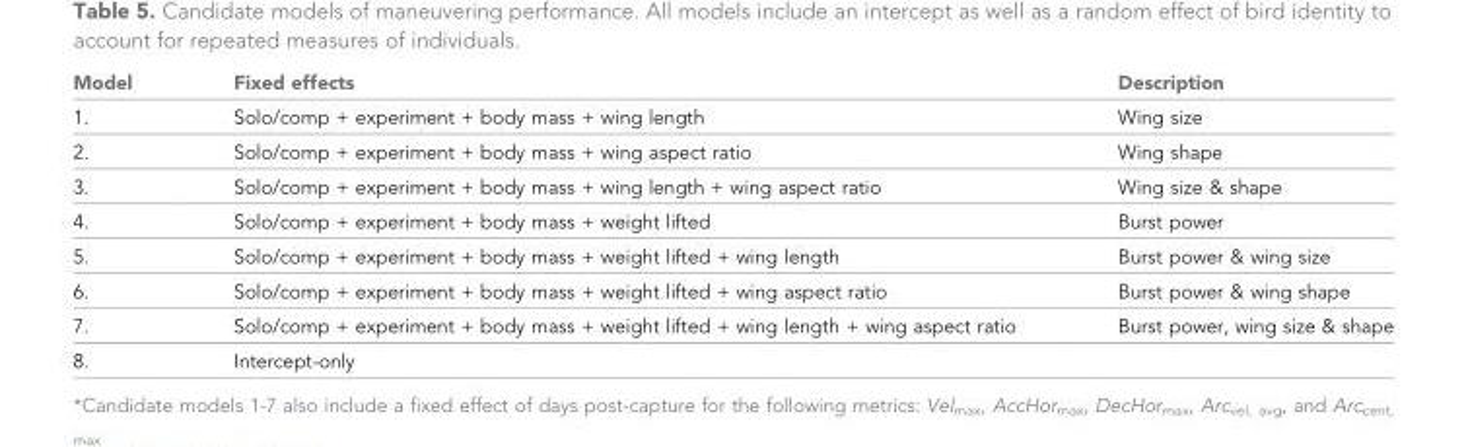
<table><thead><tr><td>Model</td><td>Fixed effects</td><td>Description</td></tr></thead><tbody><tr><td>1.</td><td>Solo/comp + experiment + body mass + wing length</td><td>Wing size</td></tr><tr><td>2.</td><td>Solo/comp + experiment + body mass + wing aspect ratio</td><td>Wing shape</td></tr><tr><td>3.</td><td>Solo/comp + experiment + body mass + wing length + wing aspect ratio</td><td>Wing size &amp; shape</td></tr><tr><td>4.</td><td>Solo/comp + experiment + body mass + weight lifted</td><td>Burst power</td></tr><tr><td>5.</td><td>Solo/comp + experiment + body mass + weight lifted + wing length</td><td>Burst power &amp; wing size</td></tr><tr><td>6.</td><td>Solo/comp + experiment + body mass + weight lifted + wing aspect ratio</td><td>Burst power &amp; wing shape</td></tr><tr><td>7.</td><td>Solo/comp + experiment + body mass + weight lifted + wing length + wing aspect ratio</td><td>Burst power, wing size &amp; shape</td></tr><tr><td>8.</td><td>Intercept-only</td><td></td></tr></tbody></table>